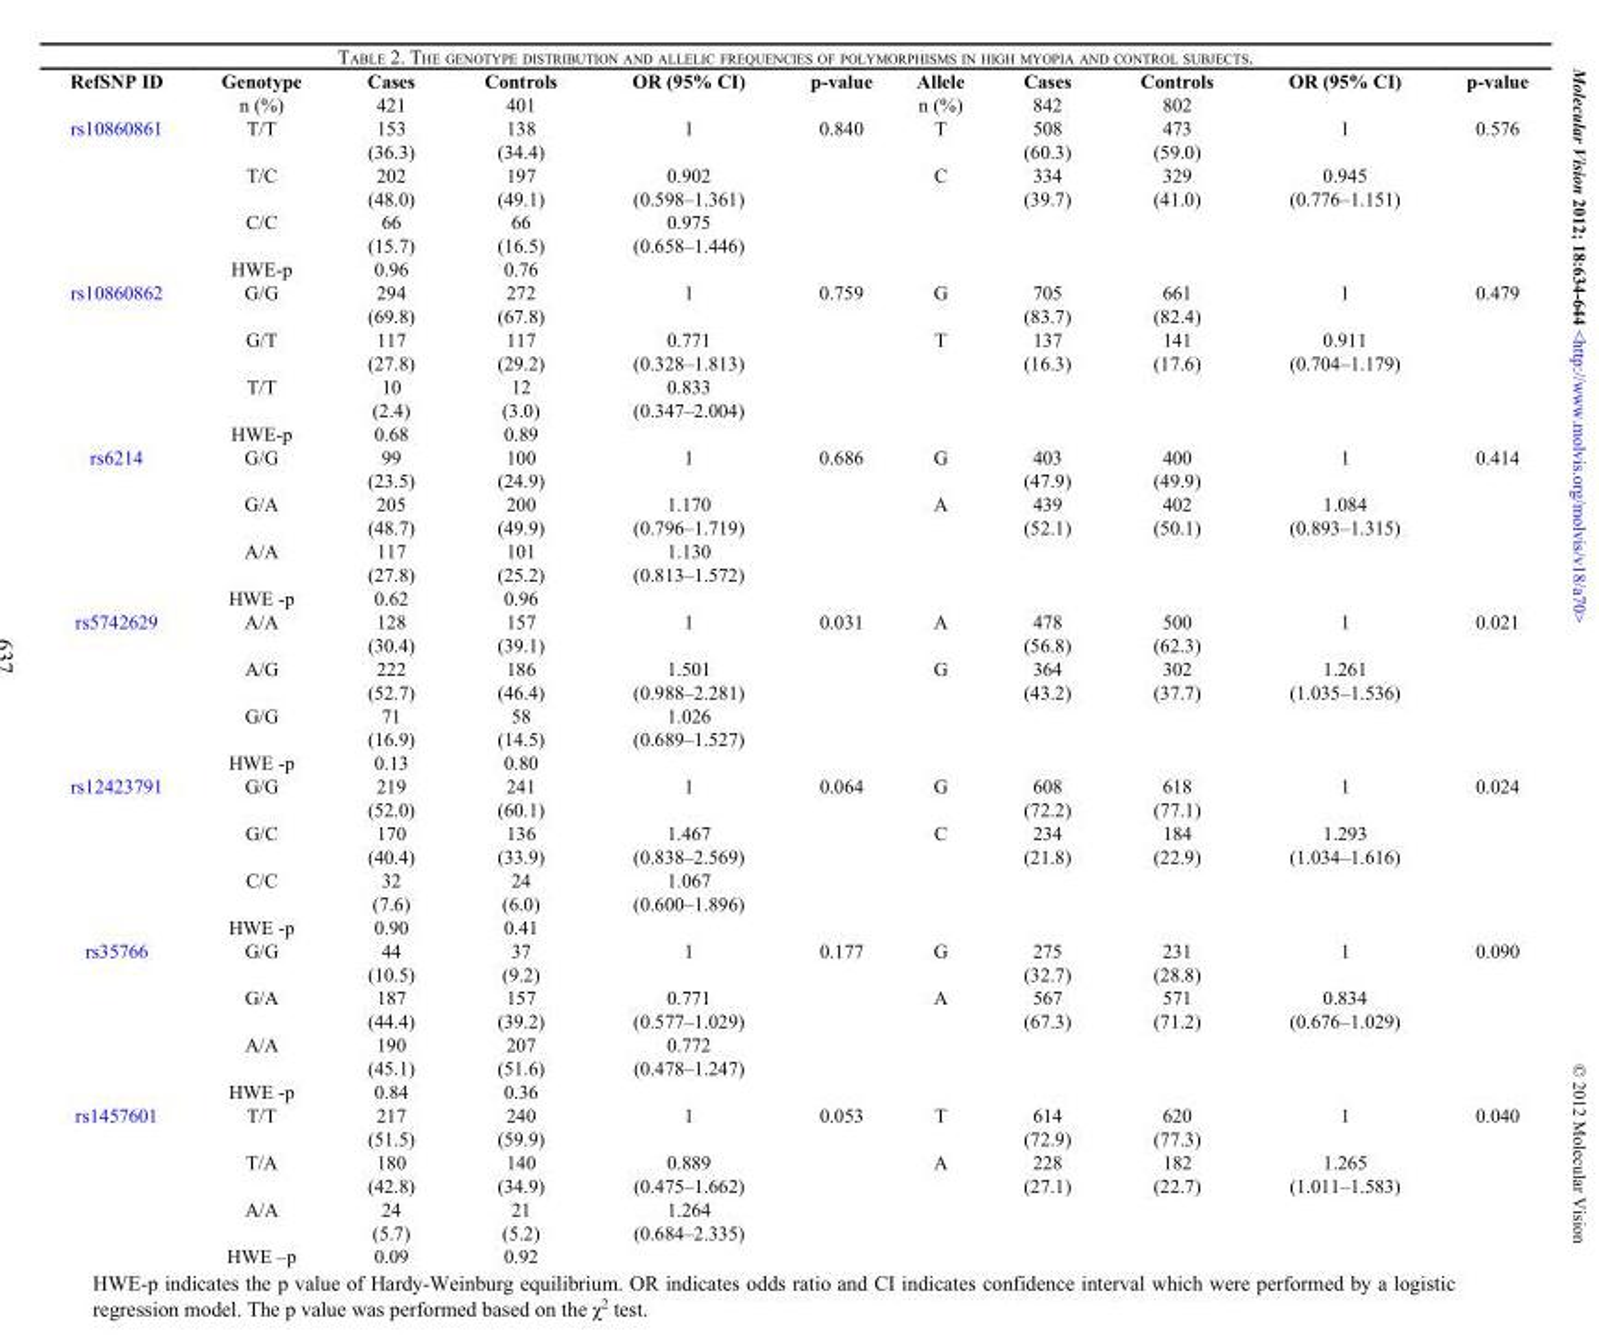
<table><thead><tr><td>RefSNP ID</td><td>Genotype</td><td>Cases</td><td>Controls</td><td>OR (95% CI)</td><td>p-value</td><td>Allele</td><td>Cases</td><td>Controls</td><td>OR (95% CI)</td><td>p-value</td></tr></thead><tbody><tr><td></td><td>n (%)</td><td>421</td><td>401</td><td></td><td></td><td>n (%)</td><td>842</td><td>802</td><td></td><td></td></tr><tr><td rowspan="4">rs10860861</td><td>T/T</td><td>153 (36.3)</td><td>138 (34.4)</td><td>1</td><td>0.840</td><td>T</td><td>508 (60.3)</td><td>473 (59.0)</td><td>1</td><td>0.576</td></tr><tr><td>T/C</td><td>202 (48.0)</td><td>197 (49.1)</td><td>0.902 (0.598–1.361)</td><td></td><td>C</td><td>334 (39.7)</td><td>329 (41.0)</td><td>0.945 (0.776–1.151)</td><td></td></tr><tr><td>C/C</td><td>66 (15.7)</td><td>66 (16.5)</td><td>0.975 (0.658–1.446)</td><td></td><td></td><td></td><td></td><td></td><td></td></tr><tr><td>HWE-p</td><td>0.96</td><td>0.76</td><td></td><td></td><td></td><td></td><td></td><td></td><td></td></tr><tr><td rowspan="4">rs10860862</td><td>G/G</td><td>294 (69.8)</td><td>272 (67.8)</td><td>1</td><td>0.759</td><td>G</td><td>705 (83.7)</td><td>661 (82.4)</td><td>1</td><td>0.479</td></tr><tr><td>G/T</td><td>117 (27.8)</td><td>117 (29.2)</td><td>0.771 (0.328–1.813)</td><td></td><td>T</td><td>137 (16.3)</td><td>141 (17.6)</td><td>0.911 (0.704–1.179)</td><td></td></tr><tr><td>T/T</td><td>10 (2.4)</td><td>12 (3.0)</td><td>0.833 (0.347–2.004)</td><td></td><td></td><td></td><td></td><td></td><td></td></tr><tr><td>HWE-p</td><td>0.68</td><td>0.89</td><td></td><td></td><td></td><td></td><td></td><td></td><td></td></tr><tr><td rowspan="4">rs6214</td><td>G/G</td><td>99 (23.5)</td><td>100 (24.9)</td><td>1</td><td>0.686</td><td>G</td><td>403 (47.9)</td><td>400 (49.9)</td><td>1</td><td>0.414</td></tr><tr><td>G/A</td><td>205 (48.7)</td><td>200 (49.9)</td><td>1.170 (0.796–1.719)</td><td></td><td>A</td><td>439 (52.1)</td><td>402 (50.1)</td><td>1.084 (0.893–1.315)</td><td></td></tr><tr><td>A/A</td><td>117 (27.8)</td><td>101 (25.2)</td><td>1.130 (0.813–1.572)</td><td></td><td></td><td></td><td></td><td></td><td></td></tr><tr><td>HWE -p</td><td>0.62</td><td>0.96</td><td></td><td></td><td></td><td></td><td></td><td></td><td></td></tr><tr><td rowspan="4">rs5742629</td><td>A/A</td><td>128 (30.4)</td><td>157 (39.1)</td><td>1</td><td>0.031</td><td>A</td><td>478 (56.8)</td><td>500 (62.3)</td><td>1</td><td>0.021</td></tr><tr><td>A/G</td><td>222 (52.7)</td><td>186 (46.4)</td><td>1.501 (0.988–2.281)</td><td></td><td>G</td><td>364 (43.2)</td><td>302 (37.7)</td><td>1.261 (1.035–1.536)</td><td></td></tr><tr><td>G/G</td><td>71 (16.9)</td><td>58 (14.5)</td><td>1.026 (0.689–1.527)</td><td></td><td></td><td></td><td></td><td></td><td></td></tr><tr><td>HWE -p</td><td>0.13</td><td>0.80</td><td></td><td></td><td></td><td></td><td></td><td></td><td></td></tr><tr><td rowspan="4">rs12423791</td><td>G/G</td><td>219 (52.0)</td><td>241 (60.1)</td><td>1</td><td>0.064</td><td>G</td><td>608 (72.2)</td><td>618 (77.1)</td><td>1</td><td>0.024</td></tr><tr><td>G/C</td><td>170 (40.4)</td><td>136 (33.9)</td><td>1.467 (0.838–2.569)</td><td></td><td>C</td><td>234 (21.8)</td><td>184 (22.9)</td><td>1.293 (1.034–1.616)</td><td></td></tr><tr><td>C/C</td><td>32 (7.6)</td><td>24 (6.0)</td><td>1.067 (0.600–1.896)</td><td></td><td></td><td></td><td></td><td></td><td></td></tr><tr><td>HWE -p</td><td>0.90</td><td>0.41</td><td></td><td></td><td></td><td></td><td></td><td></td><td></td></tr><tr><td rowspan="4">rs35766</td><td>G/G</td><td>44 (10.5)</td><td>37 (9.2)</td><td>1</td><td>0.177</td><td>G</td><td>275 (32.7)</td><td>231 (28.8)</td><td>1</td><td>0.090</td></tr><tr><td>G/A</td><td>187 (44.4)</td><td>157 (39.2)</td><td>0.771 (0.577–1.029)</td><td></td><td>A</td><td>567 (67.3)</td><td>571 (71.2)</td><td>0.834 (0.676–1.029)</td><td></td></tr><tr><td>A/A</td><td>190 (45.1)</td><td>207 (51.6)</td><td>0.772 (0.478–1.247)</td><td></td><td></td><td></td><td></td><td></td><td></td></tr><tr><td>HWE -p</td><td>0.84</td><td>0.36</td><td></td><td></td><td></td><td></td><td></td><td></td><td></td></tr><tr><td rowspan="4">rs1457601</td><td>T/T</td><td>217 (51.5)</td><td>240 (59.9)</td><td>1</td><td>0.053</td><td>T</td><td>614 (72.9)</td><td>620 (77.3)</td><td>1</td><td>0.040</td></tr><tr><td>T/A</td><td>180 (42.8)</td><td>140 (34.9)</td><td>0.889 (0.475–1.662)</td><td></td><td>A</td><td>228 (27.1)</td><td>182 (22.7)</td><td>1.265 (1.011–1.583)</td><td></td></tr><tr><td>A/A</td><td>24 (5.7)</td><td>21 (5.2)</td><td>1.264 (0.684–2.335)</td><td></td><td></td><td></td><td></td><td></td><td></td></tr><tr><td>HWE –p</td><td>0.09</td><td>0.92</td><td></td><td></td><td></td><td></td><td></td><td></td><td></td></tr></tbody></table>